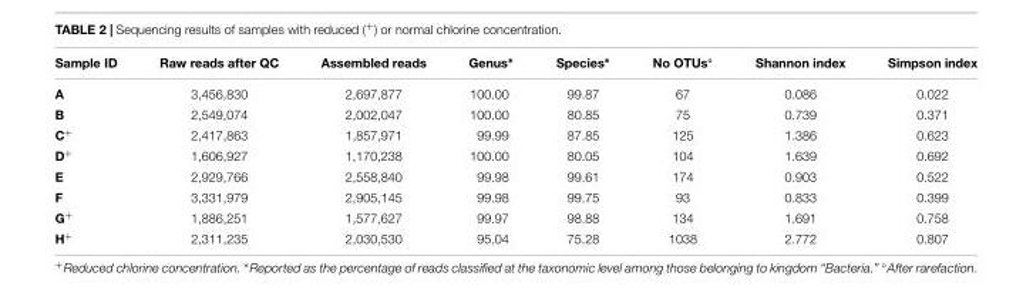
<table><thead><tr><td>Sample ID</td><td>Raw reads after QC</td><td>Assembled reads</td><td>Genus∗</td><td>Species∗</td><td>No OTUs◦</td><td>Shannon index</td><td>Simpson index</td></tr></thead><tbody><tr><td>A</td><td>3,456,830</td><td>2,697,877</td><td>100.00</td><td>99.87</td><td>67</td><td>0.086</td><td>0.022</td></tr><tr><td>B</td><td>2,549,074</td><td>2,002,047</td><td>100.00</td><td>80.85</td><td>75</td><td>0.739</td><td>0.371</td></tr><tr><td>C<sup>+</sup></td><td>2,417,863</td><td>1,857,971</td><td>99.99</td><td>87.85</td><td>125</td><td>1.386</td><td>0.623</td></tr><tr><td>D<sup>+</sup></td><td>1,606,927</td><td>1,170,238</td><td>100.00</td><td>80.05</td><td>104</td><td>1.639</td><td>0.692</td></tr><tr><td>E</td><td>2,929,766</td><td>2,558,840</td><td>99.98</td><td>99.61</td><td>174</td><td>0.903</td><td>0.522</td></tr><tr><td>F</td><td>3,331,979</td><td>2,905,145</td><td>99.98</td><td>99.75</td><td>93</td><td>0.833</td><td>0.399</td></tr><tr><td>G<sup>+</sup></td><td>1,886,251</td><td>1,577,627</td><td>99.97</td><td>98.88</td><td>134</td><td>1.691</td><td>0.758</td></tr><tr><td>H<sup>+</sup></td><td>2,311,235</td><td>2,030,530</td><td>95.04</td><td>75.28</td><td>1038</td><td>2.772</td><td>0.807</td></tr></tbody></table>